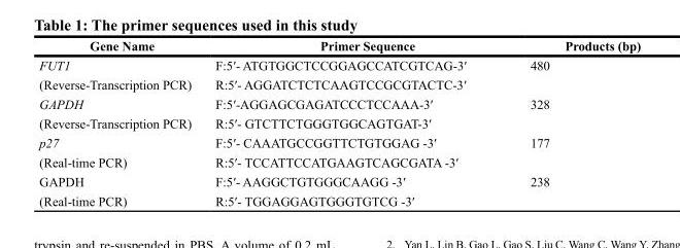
<table><thead><tr><td>Gene Name</td><td>Primer Sequence</td><td>Products (bp)</td></tr></thead><tbody><tr><td>FUT1</td><td>F:5′- ATGTGGCTCCGGAGCCATCGTCAG-3′</td><td>480</td></tr><tr><td>(Reverse-Transcription PCR)</td><td>R:5′- AGGATCTCTCAAGTCCGCGTACTC-3′</td><td></td></tr><tr><td>GAPDH</td><td>F:5′-AGGAGCGAGATCCCTCCAAA-3′</td><td>328</td></tr><tr><td>(Reverse-Transcription PCR)</td><td>R:5′- GTCTTCTGGGTGGCAGTGAT-3′</td><td></td></tr><tr><td>p27</td><td>F:5′- CAAATGCCGGTTCTGTGGAG -3′</td><td>177</td></tr><tr><td>(Real-time PCR)</td><td>R:5′- TCCATTCCATGAAGTCAGCGATA -3′</td><td></td></tr><tr><td>GAPDH</td><td>F:5′- AAGGCTGTGGGCAAGG -3′</td><td>238</td></tr><tr><td>(Real-time PCR)</td><td>R:5′- TGGAGGAGTGGGTGTCG -3′</td><td></td></tr></tbody></table>